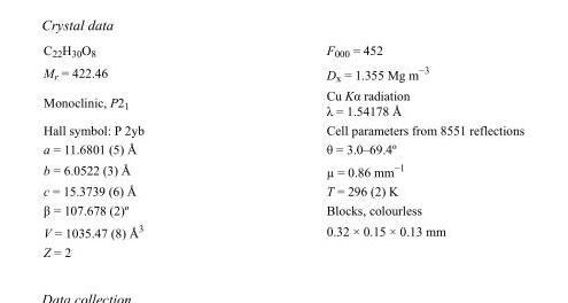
<table><tbody><tr><td>C<sub>22</sub>H<sub>30</sub>O<sub>8</sub></td><td>F<sub>000</sub> = 452</td></tr><tr><td>M<sub>r</sub> = 422.46</td><td>D<sub>x</sub> = 1.355 Mg m<sup>−3</sup></td></tr><tr><td>Monoclinic, P2<sub>1</sub></td><td>Cu Kα radiation λ = 1.54178 Å</td></tr><tr><td>Hall symbol: P 2yb</td><td>Cell parameters from 8551 reflections</td></tr><tr><td>a = 11.6801 (5) Å</td><td>θ = 3.0–69.4º</td></tr><tr><td>b = 6.0522 (3) Å</td><td>µ = 0.86 mm<sup>−1</sup></td></tr><tr><td>c = 15.3739 (6) Å</td><td>T = 296 (2) K</td></tr><tr><td>β = 107.678 (2)º</td><td>Blocks, colourless</td></tr><tr><td>V = 1035.47 (8) Å<sup>3</sup></td><td>0.32 × 0.15 × 0.13 mm</td></tr><tr><td>Z = 2</td><td></td></tr></tbody></table>